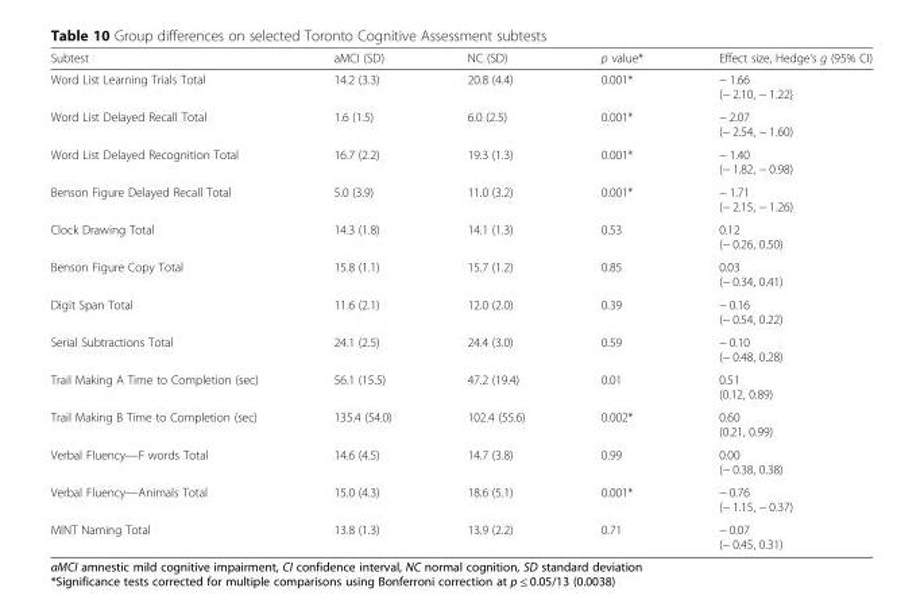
<table><thead><tr><td>Subtest</td><td>aMCI (SD)</td><td>NC (SD)</td><td>p value*</td><td>Effect size, Hedge’s g (95% CI)</td></tr></thead><tbody><tr><td>Word List Learning Trials Total</td><td>14.2 (3.3)</td><td>20.8 (4.4)</td><td>0.001*</td><td>− 1.66 (− 2.10, − 1.22}</td></tr><tr><td>Word List Delayed Recall Total</td><td>1.6 (1.5)</td><td>6.0 (2.5)</td><td>0.001*</td><td>− 2.07 (− 2.54, − 1.60)</td></tr><tr><td>Word List Delayed Recognition Total</td><td>16.7 (2.2)</td><td>19.3 (1.3)</td><td>0.001*</td><td>− 1.40 (− 1.82, − 0.98)</td></tr><tr><td>Benson Figure Delayed Recall Total</td><td>5.0 (3.9)</td><td>11.0 (3.2)</td><td>0.001*</td><td>− 1.71 (− 2.15, − 1.26)</td></tr><tr><td>Clock Drawing Total</td><td>14.3 (1.8)</td><td>14.1 (1.3)</td><td>0.53</td><td>0.12 (− 0.26, 0.50)</td></tr><tr><td>Benson Figure Copy Total</td><td>15.8 (1.1)</td><td>15.7 (1.2)</td><td>0.85</td><td>0.03 (− 0.34, 0.41)</td></tr><tr><td>Digit Span Total</td><td>11.6 (2.1)</td><td>12.0 (2.0)</td><td>0.39</td><td>− 0.16 (− 0.54, 0.22)</td></tr><tr><td>Serial Subtractions Total</td><td>24.1 (2.5)</td><td>24.4 (3.0)</td><td>0.59</td><td>− 0.10 (− 0.48, 0.28)</td></tr><tr><td>Trail Making A Time to Completion (sec)</td><td>56.1 (15.5)</td><td>47.2 (19.4)</td><td>0.01</td><td>0.51 (0.12, 0.89)</td></tr><tr><td>Trail Making B Time to Completion (sec)</td><td>135.4 (54.0)</td><td>102.4 (55.6)</td><td>0.002*</td><td>0.60 (0.21, 0.99)</td></tr><tr><td>Verbal Fluency—F words Total</td><td>14.6 (4.5)</td><td>14.7 (3.8)</td><td>0.99</td><td>0.00 (− 0.38, 0.38)</td></tr><tr><td>Verbal Fluency—Animals Total</td><td>15.0 (4.3)</td><td>18.6 (5.1)</td><td>0.001*</td><td>− 0.76 (− 1.15, − 0.37)</td></tr><tr><td>MINT Naming Total</td><td>13.8 (1.3)</td><td>13.9 (2.2)</td><td>0.71</td><td>− 0.07 (− 0.45, 0.31)</td></tr></tbody></table>